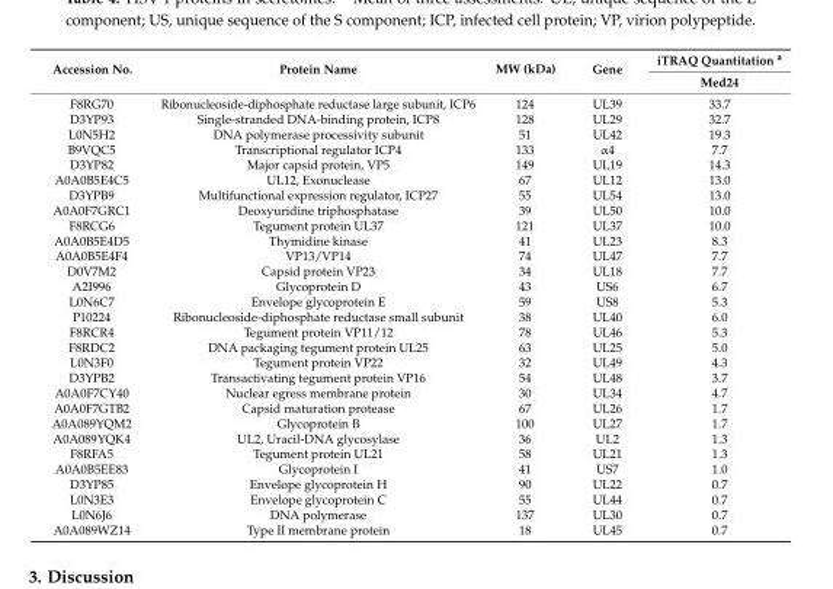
<table><thead><tr><td rowspan="2">Accession No.</td><td rowspan="2">Protein Name</td><td rowspan="2">MW (kDa)</td><td rowspan="2">Gene</td><td rowspan="2">iTRAQ Quantitation <sup>a</sup> Med24</td></tr><tr></tr></thead><tbody><tr><td>F8RG70</td><td>Ribonucleoside-diphosphate reductase large subunit, ICP6</td><td>124</td><td>UL39</td><td>33.7</td></tr><tr><td>D3YP93</td><td>Single-stranded DNA-binding protein, ICP8</td><td>128</td><td>UL29</td><td>32.7</td></tr><tr><td>L0N5H2</td><td>DNA polymerase processivity subunit</td><td>51</td><td>UL42</td><td>19.3</td></tr><tr><td>B9VQC5</td><td>Transcriptional regulator ICP4</td><td>133</td><td>α4</td><td>7.7</td></tr><tr><td>D3YP82</td><td>Major capsid protein, VP5</td><td>149</td><td>UL19</td><td>14.3</td></tr><tr><td>A0A0B5E4C5</td><td>UL12, Exonuclease</td><td>67</td><td>UL12</td><td>13.0</td></tr><tr><td>D3YPB9</td><td>Multifunctional expression regulator, ICP27</td><td>55</td><td>UL54</td><td>13.0</td></tr><tr><td>A0A0F7GRC1</td><td>Deoxyuridine triphosphatase</td><td>39</td><td>UL50</td><td>10.0</td></tr><tr><td>F8RCG6</td><td>Tegument protein UL37</td><td>121</td><td>UL37</td><td>10.0</td></tr><tr><td>A0A0B5E4D5</td><td>Thymidine kinase</td><td>41</td><td>UL23</td><td>8.3</td></tr><tr><td>A0A0B5E4F4</td><td>VP13/VP14</td><td>74</td><td>UL47</td><td>7.7</td></tr><tr><td>D0V7M2</td><td>Capsid protein VP23</td><td>34</td><td>UL18</td><td>7.7</td></tr><tr><td>A2I996</td><td>Glycoprotein D</td><td>43</td><td>US6</td><td>6.7</td></tr><tr><td>L0N6C7</td><td>Envelope glycoprotein E</td><td>59</td><td>US8</td><td>5.3</td></tr><tr><td>P10224</td><td>Ribonucleoside-diphosphate reductase small subunit</td><td>38</td><td>UL40</td><td>6.0</td></tr><tr><td>F8RCR4</td><td>Tegument protein VP11/12</td><td>78</td><td>UL46</td><td>5.3</td></tr><tr><td>F8RDC2</td><td>DNA packaging tegument protein UL25</td><td>63</td><td>UL25</td><td>5.0</td></tr><tr><td>L0N3F0</td><td>Tegument protein VP22</td><td>32</td><td>UL49</td><td>4.3</td></tr><tr><td>D3YPB2</td><td>Transactivating tegument protein VP16</td><td>54</td><td>UL48</td><td>3.7</td></tr><tr><td>A0A0F7CY40</td><td>Nuclear egress membrane protein</td><td>30</td><td>UL34</td><td>4.7</td></tr><tr><td>A0A0F7GTB2</td><td>Capsid maturation protease</td><td>67</td><td>UL26</td><td>1.7</td></tr><tr><td>A0A089YQM2</td><td>Glycoprotein B</td><td>100</td><td>UL27</td><td>1.7</td></tr><tr><td>A0A089YQK4</td><td>UL2, Uracil-DNA glycosylase</td><td>36</td><td>UL2</td><td>1.3</td></tr><tr><td>F8RFA5</td><td>Tegument protein UL21</td><td>58</td><td>UL21</td><td>1.3</td></tr><tr><td>A0A0B5EE83</td><td>Glycoprotein I</td><td>41</td><td>US7</td><td>1.0</td></tr><tr><td>D3YP85</td><td>Envelope glycoprotein H</td><td>90</td><td>UL22</td><td>0.7</td></tr><tr><td>L0N3E3</td><td>Envelope glycoprotein C</td><td>55</td><td>UL44</td><td>0.7</td></tr><tr><td>L0N6J6</td><td>DNA polymerase</td><td>137</td><td>UL30</td><td>0.7</td></tr><tr><td>A0A089WZ14</td><td>Type II membrane protein</td><td>18</td><td>UL45</td><td>0.7</td></tr></tbody></table>